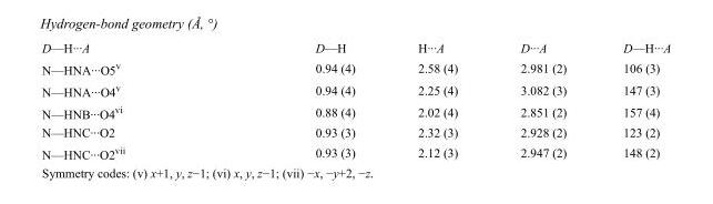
<table><tbody><tr><td>D—H···A</td><td>D—H</td><td>H···A</td><td>D···A</td><td>D—H···A</td></tr><tr><td>N—HNA···O5<sup>v</sup></td><td>0.94 (4)</td><td>2.58 (4)</td><td>2.981 (2)</td><td>106 (3)</td></tr><tr><td>N—HNA···O4<sup>v</sup></td><td>0.94 (4)</td><td>2.25 (4)</td><td>3.082 (3)</td><td>147 (3)</td></tr><tr><td>N—HNB···O4<sup>vi</sup></td><td>0.88 (4)</td><td>2.02 (4)</td><td>2.851 (2)</td><td>157 (4)</td></tr><tr><td>N—HNC···O2</td><td>0.93 (3)</td><td>2.32 (3)</td><td>2.928 (2)</td><td>123 (2)</td></tr><tr><td>N—HNC···O2<sup>vii</sup></td><td>0.93 (3)</td><td>2.12 (3)</td><td>2.947 (2)</td><td>148 (2)</td></tr></tbody></table>